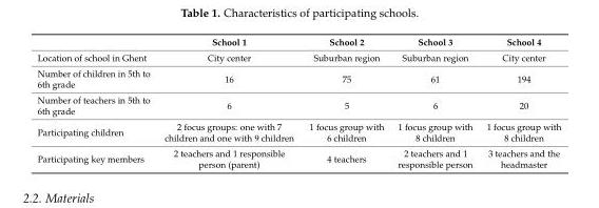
<table><thead><tr><td></td><td>School 1</td><td>School 2</td><td>School 3</td><td>School 4</td></tr></thead><tbody><tr><td>Location of school in Ghent</td><td>City center</td><td>Suburban region</td><td>Suburban region</td><td>City center</td></tr><tr><td>Number of children in 5th to 6th grade</td><td>16</td><td>75</td><td>61</td><td>194</td></tr><tr><td>Number of teachers in 5th to 6th grade</td><td>6</td><td>5</td><td>6</td><td>20</td></tr><tr><td>Participating children</td><td>2 focus groups: one with 7 children and one with 9 children</td><td>1 focus group with 6 children</td><td>1 focus group with 8 children</td><td>1 focus group with 8 children</td></tr><tr><td>Participating key members</td><td>2 teachers and 1 responsible person (parent)</td><td>4 teachers</td><td>2 teachers and 1 responsible person</td><td>3 teachers and the headmaster</td></tr></tbody></table>